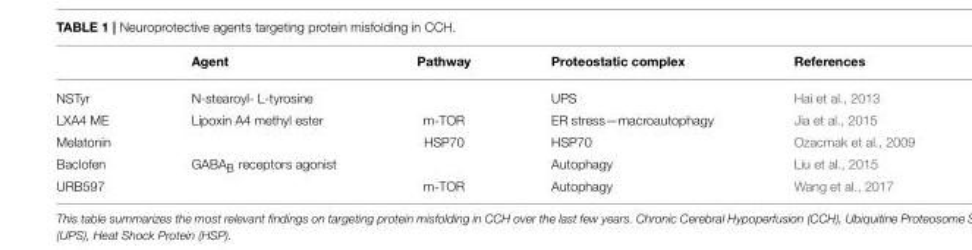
<table><thead><tr><td></td><td>Agent</td><td>Pathway</td><td>Proteostatic complex</td><td>References</td></tr></thead><tbody><tr><td>NSTyr</td><td>N-stearoyl- L-tyrosine</td><td></td><td>UPS</td><td>Hai et al., 2013</td></tr><tr><td>LXA4 ME</td><td>Lipoxin A4 methyl ester</td><td>m-TOR</td><td>ER stress—macroautophagy</td><td>Jia et al., 2015</td></tr><tr><td>Melatonin</td><td></td><td>HSP70</td><td>HSP70</td><td>Ozacmak et al., 2009</td></tr><tr><td>Baclofen</td><td>GABA<sub>B</sub> receptors agonist</td><td></td><td>Autophagy</td><td>Liu et al., 2015</td></tr><tr><td>URB597</td><td></td><td>m-TOR</td><td>Autophagy</td><td>Wang et al., 2017</td></tr></tbody></table>